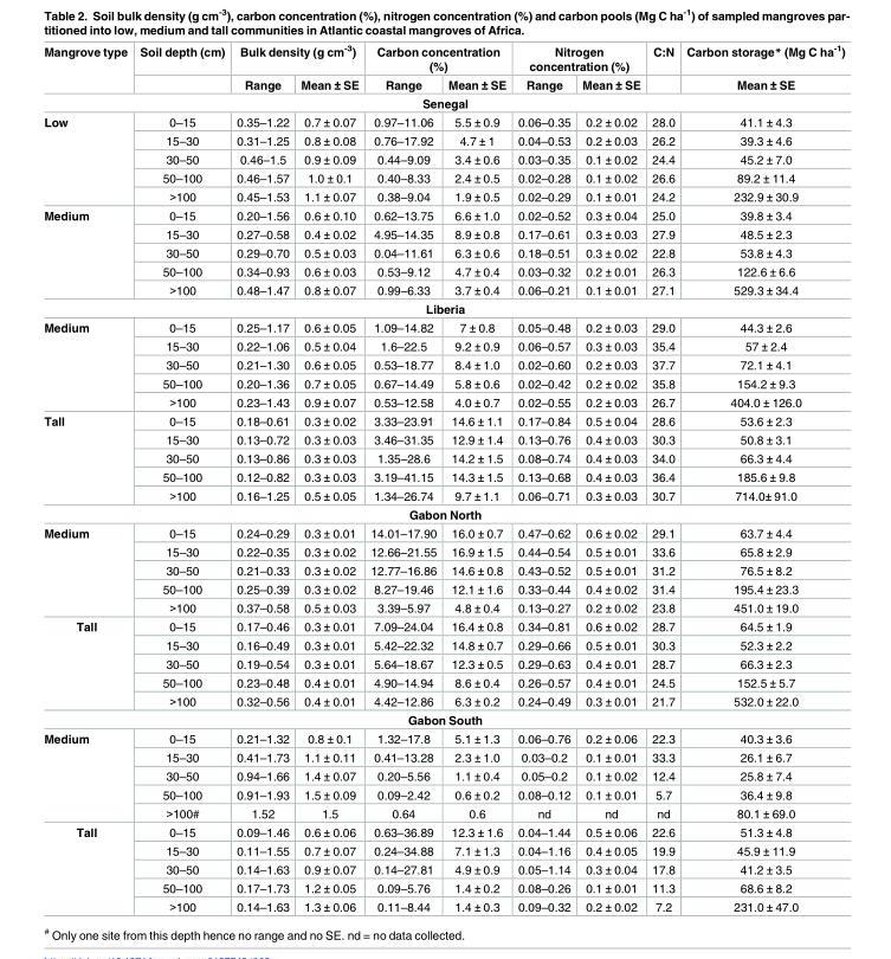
<table><thead><tr><td rowspan="2">Mangrove type</td><td rowspan="2">Soil depth (cm)</td><td colspan="2">Bulk density (g cm<sup>-3</sup>)</td><td colspan="2">Carbon concentration (%)</td><td colspan="2">Nitrogen concentration (%)</td><td rowspan="2">C:N</td><td rowspan="2">Carbon storage* (Mg C ha<sup>-1</sup>) Mean ± SE</td></tr><tr><td>Range</td><td>Mean ± SE</td><td>Range</td><td>Mean ± SE</td><td>Range</td><td>Mean ± SE</td></tr></thead><tbody><tr><td colspan="10">Senegal</td></tr><tr><td rowspan="5">Low</td><td>0–15</td><td>0.35–1.22</td><td>0.7 ± 0.07</td><td>0.97–11.06</td><td>5.5 ± 0.9</td><td>0.06–0.35</td><td>0.2 ± 0.02</td><td>28.0</td><td>41.1 ± 4.3</td></tr><tr><td>15–30</td><td>0.31–1.25</td><td>0.8 ± 0.08</td><td>0.76–17.92</td><td>4.7 ± 1</td><td>0.04–0.53</td><td>0.2 ± 0.03</td><td>26.2</td><td>39.3 ± 4.6</td></tr><tr><td>30–50</td><td>0.46–1.5</td><td>0.9 ± 0.09</td><td>0.44–9.09</td><td>3.4 ± 0.6</td><td>0.03–0.35</td><td>0.1 ± 0.02</td><td>24.4</td><td>45.2 ± 7.0</td></tr><tr><td>50–100</td><td>0.46–1.57</td><td>1.0 ± 0.1</td><td>0.40–8.33</td><td>2.4 ± 0.5</td><td>0.02–0.28</td><td>0.1 ± 0.02</td><td>26.6</td><td>89.2 ± 11.4</td></tr><tr><td>&gt;100</td><td>0.45–1.53</td><td>1.1 ± 0.07</td><td>0.38–9.04</td><td>1.9 ± 0.5</td><td>0.02–0.29</td><td>0.1 ± 0.01</td><td>24.2</td><td>232.9 ± 30.9</td></tr><tr><td rowspan="5">Medium</td><td>0–15</td><td>0.20–1.56</td><td>0.6 ± 0.10</td><td>0.62–13.75</td><td>6.6 ± 1.0</td><td>0.02–0.52</td><td>0.3 ± 0.04</td><td>25.0</td><td>39.8 ± 3.4</td></tr><tr><td>15–30</td><td>0.27–0.58</td><td>0.4 ± 0.02</td><td>4.95–14.35</td><td>8.9 ± 0.8</td><td>0.17–0.61</td><td>0.3 ± 0.03</td><td>27.9</td><td>48.5 ± 2.3</td></tr><tr><td>30–50</td><td>0.29–0.70</td><td>0.5 ± 0.03</td><td>0.04–11.61</td><td>6.3 ± 0.6</td><td>0.18–0.51</td><td>0.3 ± 0.02</td><td>22.8</td><td>53.8 ± 4.3</td></tr><tr><td>50–100</td><td>0.34–0.93</td><td>0.6 ± 0.03</td><td>0.53–9.12</td><td>4.7 ± 0.4</td><td>0.03–0.32</td><td>0.2 ± 0.01</td><td>26.3</td><td>122.6 ± 6.6</td></tr><tr><td>&gt;100</td><td>0.48–1.47</td><td>0.8 ± 0.07</td><td>0.99–6.33</td><td>3.7 ± 0.4</td><td>0.06–0.21</td><td>0.1 ± 0.01</td><td>27.1</td><td>529.3 ± 34.4</td></tr><tr><td colspan="10">Liberia</td></tr><tr><td rowspan="5">Medium</td><td>0–15</td><td>0.25–1.17</td><td>0.6 ± 0.05</td><td>1.09–14.82</td><td>7 ± 0.8</td><td>0.05–0.48</td><td>0.2 ± 0.03</td><td>29.0</td><td>44.3 ± 2.6</td></tr><tr><td>15–30</td><td>0.22–1.06</td><td>0.5 ± 0.04</td><td>1.6–22.5</td><td>9.2 ± 0.9</td><td>0.06–0.57</td><td>0.3 ± 0.03</td><td>35.4</td><td>57 ± 2.4</td></tr><tr><td>30–50</td><td>0.21–1.30</td><td>0.6 ± 0.05</td><td>0.53–18.77</td><td>8.4 ± 1.0</td><td>0.02–0.60</td><td>0.2 ± 0.03</td><td>37.7</td><td>72.1 ± 4.1</td></tr><tr><td>50–100</td><td>0.20–1.36</td><td>0.7 ± 0.05</td><td>0.67–14.49</td><td>5.8 ± 0.6</td><td>0.02–0.42</td><td>0.2 ± 0.02</td><td>35.8</td><td>154.2 ± 9.3</td></tr><tr><td>&gt;100</td><td>0.23–1.43</td><td>0.9 ± 0.07</td><td>0.53–12.58</td><td>4.0 ± 0.7</td><td>0.02–0.55</td><td>0.2 ± 0.03</td><td>26.7</td><td>404.0 ± 126.0</td></tr><tr><td rowspan="5">Tall</td><td>0–15</td><td>0.18–0.61</td><td>0.3 ± 0.02</td><td>3.33–23.91</td><td>14.6 ± 1.1</td><td>0.17–0.84</td><td>0.5 ± 0.04</td><td>28.6</td><td>53.6 ± 2.3</td></tr><tr><td>15–30</td><td>0.13–0.72</td><td>0.3 ± 0.03</td><td>3.46–31.35</td><td>12.9 ± 1.4</td><td>0.13–0.76</td><td>0.4 ± 0.03</td><td>30.3</td><td>50.8 ± 3.1</td></tr><tr><td>30–50</td><td>0.13–0.86</td><td>0.3 ± 0.03</td><td>1.35–28.6</td><td>14.2 ± 1.5</td><td>0.08–0.74</td><td>0.4 ± 0.03</td><td>34.0</td><td>66.3 ± 4.4</td></tr><tr><td>50–100</td><td>0.12–0.82</td><td>0.3 ± 0.03</td><td>3.19–41.15</td><td>14.3 ± 1.5</td><td>0.13–0.68</td><td>0.4 ± 0.03</td><td>36.4</td><td>185.6 ± 9.8</td></tr><tr><td>&gt;100</td><td>0.16–1.25</td><td>0.5 ± 0.05</td><td>1.34–26.74</td><td>9.7 ± 1.1</td><td>0.06–0.71</td><td>0.3 ± 0.03</td><td>30.7</td><td>714.0± 91.0</td></tr><tr><td colspan="10">Gabon North</td></tr><tr><td rowspan="5">Medium</td><td>0–15</td><td>0.24–0.29</td><td>0.3 ± 0.01</td><td>14.01–17.90</td><td>16.0 ± 0.7</td><td>0.47–0.62</td><td>0.6 ± 0.02</td><td>29.1</td><td>63.7 ± 4.4</td></tr><tr><td>15–30</td><td>0.22–0.35</td><td>0.3 ± 0.02</td><td>12.66–21.55</td><td>16.9 ± 1.5</td><td>0.44–0.54</td><td>0.5 ± 0.01</td><td>33.6</td><td>65.8 ± 2.9</td></tr><tr><td>30–50</td><td>0.21–0.33</td><td>0.3 ± 0.02</td><td>12.77–16.86</td><td>14.6 ± 0.8</td><td>0.43–0.52</td><td>0.5 ± 0.01</td><td>31.2</td><td>76.5 ± 8.2</td></tr><tr><td>50–100</td><td>0.25–0.39</td><td>0.3 ± 0.02</td><td>8.27–19.46</td><td>12.1 ± 1.6</td><td>0.33–0.44</td><td>0.4 ± 0.02</td><td>31.4</td><td>195.4 ± 23.3</td></tr><tr><td>&gt;100</td><td>0.37–0.58</td><td>0.5 ± 0.03</td><td>3.39–5.97</td><td>4.8 ± 0.4</td><td>0.13–0.27</td><td>0.2 ± 0.02</td><td>23.8</td><td>451.0 ± 19.0</td></tr><tr><td rowspan="5">Tall</td><td>0–15</td><td>0.17–0.46</td><td>0.3 ± 0.01</td><td>7.09–24.04</td><td>16.4 ± 0.8</td><td>0.34–0.81</td><td>0.6 ± 0.02</td><td>28.7</td><td>64.5 ± 1.9</td></tr><tr><td>15–30</td><td>0.16–0.49</td><td>0.3 ± 0.01</td><td>5.42–22.32</td><td>14.8 ± 0.7</td><td>0.29–0.66</td><td>0.5 ± 0.01</td><td>30.3</td><td>52.3 ± 2.2</td></tr><tr><td>30–50</td><td>0.19–0.54</td><td>0.3 ± 0.01</td><td>5.64–18.67</td><td>12.3 ± 0.5</td><td>0.29–0.63</td><td>0.4 ± 0.01</td><td>28.7</td><td>66.3 ± 2.3</td></tr><tr><td>50–100</td><td>0.23–0.48</td><td>0.4 ± 0.01</td><td>4.90–14.94</td><td>8.6 ± 0.4</td><td>0.26–0.57</td><td>0.4 ± 0.01</td><td>24.5</td><td>152.5 ± 5.7</td></tr><tr><td>&gt;100</td><td>0.32–0.56</td><td>0.4 ± 0.01</td><td>4.42–12.86</td><td>6.3 ± 0.2</td><td>0.24–0.49</td><td>0.3 ± 0.01</td><td>21.7</td><td>532.0 ± 22.0</td></tr><tr><td colspan="10">Gabon South</td></tr><tr><td rowspan="5">Medium</td><td>0–15</td><td>0.21–1.32</td><td>0.8 ± 0.1</td><td>1.32–17.8</td><td>5.1 ± 1.3</td><td>0.06–0.76</td><td>0.2 ± 0.06</td><td>22.3</td><td>40.3 ± 3.6</td></tr><tr><td>15–30</td><td>0.41–1.73</td><td>1.1 ± 0.11</td><td>0.41–13.28</td><td>2.3 ± 1.0</td><td>0.03–0.2</td><td>0.1 ± 0.01</td><td>33.3</td><td>26.1 ± 6.7</td></tr><tr><td>30–50</td><td>0.94–1.66</td><td>1.4 ± 0.07</td><td>0.20–5.56</td><td>1.1 ± 0.4</td><td>0.05–0.2</td><td>0.1 ± 0.02</td><td>12.4</td><td>25.8 ± 7.4</td></tr><tr><td>50–100</td><td>0.91–1.93</td><td>1.5 ± 0.09</td><td>0.09–2.42</td><td>0.6 ± 0.2</td><td>0.08–0.12</td><td>0.1 ± 0.01</td><td>5.7</td><td>36.4 ± 9.8</td></tr><tr><td>&gt;100#</td><td>1.52</td><td>1.5</td><td>0.64</td><td>0.6</td><td>nd</td><td>nd</td><td>nd</td><td>80.1 ± 69.0</td></tr><tr><td rowspan="5">Tall</td><td>0–15</td><td>0.09–1.46</td><td>0.6 ± 0.06</td><td>0.63–36.89</td><td>12.3 ± 1.6</td><td>0.04–1.44</td><td>0.5 ± 0.06</td><td>22.6</td><td>51.3 ± 4.8</td></tr><tr><td>15–30</td><td>0.11–1.55</td><td>0.7 ± 0.07</td><td>0.24–34.88</td><td>7.1 ± 1.3</td><td>0.04–1.16</td><td>0.4 ± 0.05</td><td>19.9</td><td>45.9 ± 11.9</td></tr><tr><td>30–50</td><td>0.14–1.63</td><td>0.9 ± 0.07</td><td>0.14–27.81</td><td>4.9 ± 0.9</td><td>0.05–1.14</td><td>0.3 ± 0.04</td><td>17.8</td><td>41.2 ± 3.5</td></tr><tr><td>50–100</td><td>0.17–1.73</td><td>1.2 ± 0.05</td><td>0.09–5.76</td><td>1.4 ± 0.2</td><td>0.08–0.26</td><td>0.1 ± 0.01</td><td>11.3</td><td>68.6 ± 8.2</td></tr><tr><td>&gt;100</td><td>0.14–1.63</td><td>1.3 ± 0.06</td><td>0.11–8.44</td><td>1.4 ± 0.3</td><td>0.09–0.32</td><td>0.2 ± 0.02</td><td>7.2</td><td>231.0 ± 47.0</td></tr></tbody></table>